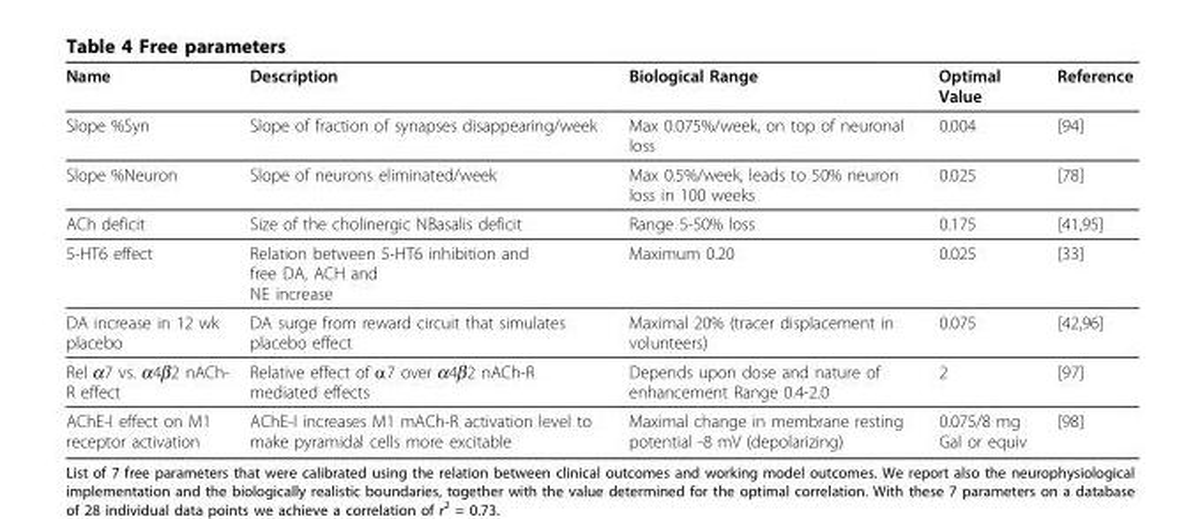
<table><thead><tr><td>Name</td><td>Description</td><td>Biological Range</td><td>Optimal Value</td><td>Reference</td></tr></thead><tbody><tr><td>Slope %Syn</td><td>Slope of fraction of synapses disappearing/week</td><td>Max 0.075%/week, on top of neuronal loss</td><td>0.004</td><td>[94]</td></tr><tr><td>Slope %Neuron</td><td>Slope of neurons eliminated/week</td><td>Max 0.5%/week, leads to 50% neuron loss in 100 weeks</td><td>0.025</td><td>[78]</td></tr><tr><td>ACh deficit</td><td>Size of the cholinergic NBasalis deficit</td><td>Range 5-50% loss</td><td>0.175</td><td>[41,95]</td></tr><tr><td>5-HT6 effect</td><td>Relation between 5-HT6 inhibition and free DA, ACH and NE increase</td><td>Maximum 0.20</td><td>0.025</td><td>[33]</td></tr><tr><td>DA increase in 12 wk placebo</td><td>DA surge from reward circuit that simulates placebo effect</td><td>Maximal 20% (tracer displacement in volunteers)</td><td>0.075</td><td>[42,96]</td></tr><tr><td>Rel α7 vs. α4β2 nACh- R effect</td><td>Relative effect of α7 over α4β2 nACh-R mediated effects</td><td>Depends upon dose and nature of enhancement Range 0.4-2.0</td><td>2</td><td>[97]</td></tr><tr><td>AChE-I effect on M1 receptor activation</td><td>AChE-I increases M1 mACh-R activation level to make pyramidal cells more excitable</td><td>Maximal change in membrane resting potential -8 mV (depolarizing)</td><td>0.075/8 mg Gal or equiv</td><td>[98]</td></tr></tbody></table>